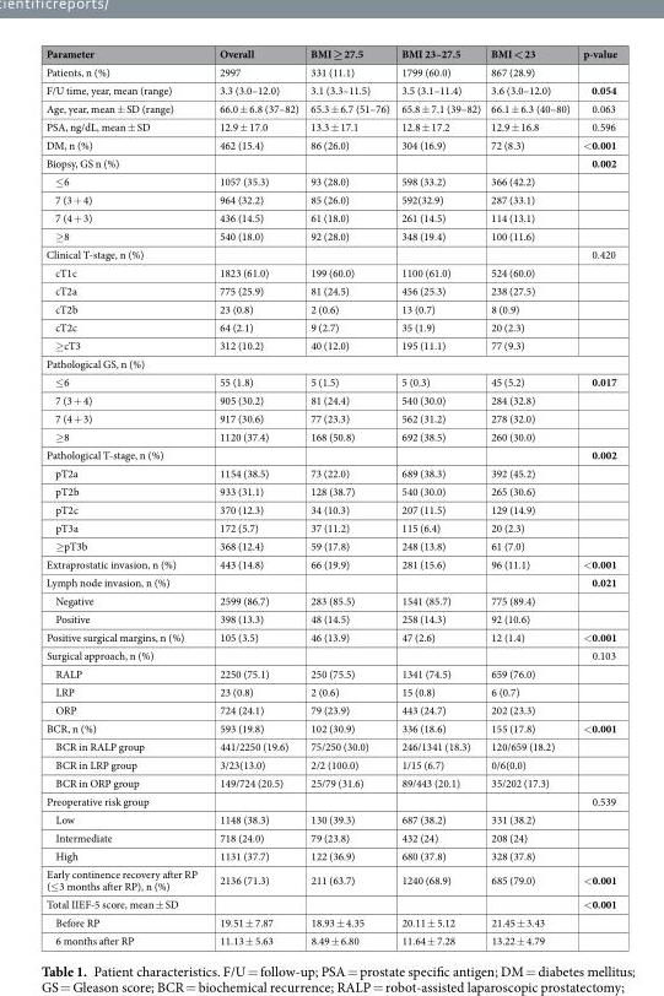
<table><thead><tr><td>Parameter</td><td>Overall</td><td>BMI ≥ 27.5</td><td>BMI 23–27.5</td><td>BMI &lt; 23</td><td>p-value</td></tr></thead><tbody><tr><td>Patients, n (%)</td><td>2997</td><td>331 (11.1)</td><td>1799 (60.0)</td><td>867 (28.9)</td><td></td></tr><tr><td>F/U time, year, mean (range)</td><td>3.3 (3.0–12.0)</td><td>3.1 (3.3–11.5)</td><td>3.5 (3.1–11.4)</td><td>3.6 (3.0–12.0)</td><td>0.054</td></tr><tr><td>Age, year, mean ± SD (range)</td><td>66.0 ± 6.8 (37–82)</td><td>65.3 ± 6.7 (51–76)</td><td>65.8 ± 7.1 (39–82)</td><td>66.1 ± 6.3 (40–80)</td><td>0.063</td></tr><tr><td>PSA, ng/dL, mean ± SD</td><td>12.9 ± 17.0</td><td>13.3 ± 17.1</td><td>12.8 ± 17.2</td><td>12.9 ± 16.8</td><td>0.596</td></tr><tr><td>DM, n (%)</td><td>462 (15.4)</td><td>86 (26.0)</td><td>304 (16.9)</td><td>72 (8.3)</td><td>&lt;0.001</td></tr><tr><td>Biopsy, GS n (%)</td><td></td><td></td><td></td><td></td><td>0.002</td></tr><tr><td>≤6</td><td>1057 (35.3)</td><td>93 (28.0)</td><td>598 (33.2)</td><td>366 (42.2)</td><td></td></tr><tr><td>7 (3 + 4)</td><td>964 (32.2)</td><td>85 (26.0)</td><td>592(32.9)</td><td>287 (33.1)</td><td></td></tr><tr><td>7 (4 + 3)</td><td>436 (14.5)</td><td>61 (18.0)</td><td>261 (14.5)</td><td>114 (13.1)</td><td></td></tr><tr><td>≥8</td><td>540 (18.0)</td><td>92 (28.0)</td><td>348 (19.4)</td><td>100 (11.6)</td><td></td></tr><tr><td>Clinical T-stage, n (%)</td><td></td><td></td><td></td><td></td><td>0.420</td></tr><tr><td>cT1c</td><td>1823 (61.0)</td><td>199 (60.0)</td><td>1100 (61.0)</td><td>524 (60.0)</td><td></td></tr><tr><td>cT2a</td><td>775 (25.9)</td><td>81 (24.5)</td><td>456 (25.3)</td><td>238 (27.5)</td><td></td></tr><tr><td>cT2b</td><td>23 (0.8)</td><td>2 (0.6)</td><td>13 (0.7)</td><td>8 (0.9)</td><td></td></tr><tr><td>cT2c</td><td>64 (2.1)</td><td>9 (2.7)</td><td>35 (1.9)</td><td>20 (2.3)</td><td></td></tr><tr><td>≥cT3</td><td>312 (10.2)</td><td>40 (12.0)</td><td>195 (11.1)</td><td>77 (9.3)</td><td></td></tr><tr><td colspan="6">Pathological GS, n (%)</td></tr><tr><td>≤6</td><td>55 (1.8)</td><td>5 (1.5)</td><td>5 (0.3)</td><td>45 (5.2)</td><td>0.017</td></tr><tr><td>7 (3 + 4)</td><td>905 (30.2)</td><td>81 (24.4)</td><td>540 (30.0)</td><td>284 (32.8)</td><td></td></tr><tr><td>7 (4 + 3)</td><td>917 (30.6)</td><td>77 (23.3)</td><td>562 (31.2)</td><td>278 (32.0)</td><td></td></tr><tr><td>≥8</td><td>1120 (37.4)</td><td>168 (50.8)</td><td>692 (38.5)</td><td>260 (30.0)</td><td></td></tr><tr><td>Pathological T-stage, n (%)</td><td></td><td></td><td></td><td></td><td>0.002</td></tr><tr><td>pT2a</td><td>1154 (38.5)</td><td>73 (22.0)</td><td>689 (38.3)</td><td>392 (45.2)</td><td></td></tr><tr><td>pT2b</td><td>933 (31.1)</td><td>128 (38.7)</td><td>540 (30.0)</td><td>265 (30.6)</td><td></td></tr><tr><td>pT2c</td><td>370 (12.3)</td><td>34 (10.3)</td><td>207 (11.5)</td><td>129 (14.9)</td><td></td></tr><tr><td>pT3a</td><td>172 (5.7)</td><td>37 (11.2)</td><td>115 (6.4)</td><td>20 (2.3)</td><td></td></tr><tr><td>≥pT3b</td><td>368 (12.4)</td><td>59 (17.8)</td><td>248 (13.8)</td><td>61 (7.0)</td><td></td></tr><tr><td>Extraprostatic invasion, n (%)</td><td>443 (14.8)</td><td>66 (19.9)</td><td>281 (15.6)</td><td>96 (11.1)</td><td>&lt;0.001</td></tr><tr><td>Lymph node invasion, n (%)</td><td></td><td></td><td></td><td></td><td>0.021</td></tr><tr><td>Negative</td><td>2599 (86.7)</td><td>283 (85.5)</td><td>1541 (85.7)</td><td>775 (89.4)</td><td></td></tr><tr><td>Positive</td><td>398 (13.3)</td><td>48 (14.5)</td><td>258 (14.3)</td><td>92 (10.6)</td><td></td></tr><tr><td>Positive surgical margins, n (%)</td><td>105 (3.5)</td><td>46 (13.9)</td><td>47 (2.6)</td><td>12 (1.4)</td><td>&lt;0.001</td></tr><tr><td>Surgical approach, n (%)</td><td></td><td></td><td></td><td></td><td>0.103</td></tr><tr><td>RALP</td><td>2250 (75.1)</td><td>250 (75.5)</td><td>1341 (74.5)</td><td>659 (76.0)</td><td></td></tr><tr><td>LRP</td><td>23 (0.8)</td><td>2 (0.6)</td><td>15 (0.8)</td><td>6 (0.7)</td><td></td></tr><tr><td>ORP</td><td>724 (24.1)</td><td>79 (23.9)</td><td>443 (24.7)</td><td>202 (23.3)</td><td></td></tr><tr><td>BCR, n (%)</td><td>593 (19.8)</td><td>102 (30.9)</td><td>336 (18.6)</td><td>155 (17.8)</td><td>&lt;0.001</td></tr><tr><td>BCR in RALP group</td><td>441/2250 (19.6)</td><td>75/250 (30.0)</td><td>246/1341 (18.3)</td><td>120/659 (18.2)</td><td></td></tr><tr><td>BCR in LRP group</td><td>3/23(13.0)</td><td>2/2 (100.0)</td><td>1/15 (6.7)</td><td>0/6(0.0)</td><td></td></tr><tr><td>BCR in ORP group</td><td>149/724 (20.5)</td><td>25/79 (31.6)</td><td>89/443 (20.1)</td><td>35/202 (17.3)</td><td></td></tr><tr><td>Preoperative risk group</td><td></td><td></td><td></td><td></td><td>0.539</td></tr><tr><td>Low</td><td>1148 (38.3)</td><td>130 (39.3)</td><td>687 (38.2)</td><td>331 (38.2)</td><td></td></tr><tr><td>Intermediate</td><td>718 (24.0)</td><td>79 (23.8)</td><td>432 (24)</td><td>208 (24)</td><td></td></tr><tr><td>High</td><td>1131 (37.7)</td><td>122 (36.9)</td><td>680 (37.8)</td><td>328 (37.8)</td><td></td></tr><tr><td>Early continence recovery after RP (≤3 months after RP), n (%)</td><td>2136 (71.3)</td><td>211 (63.7)</td><td>1240 (68.9)</td><td>685 (79.0)</td><td>&lt;0.001</td></tr><tr><td>Total IIEF-5 score, mean ± SD</td><td></td><td></td><td></td><td></td><td>&lt;0.001</td></tr><tr><td>Before RP</td><td>19.51 ± 7.87</td><td>18.93 ± 4.35</td><td>20.11 ± 5.12</td><td>21.45 ± 3.43</td><td></td></tr><tr><td>6 months after RP</td><td>11.13 ± 5.63</td><td>8.49 ± 6.80</td><td>11.64 ± 7.28</td><td>13.22 ± 4.79</td><td></td></tr></tbody></table>